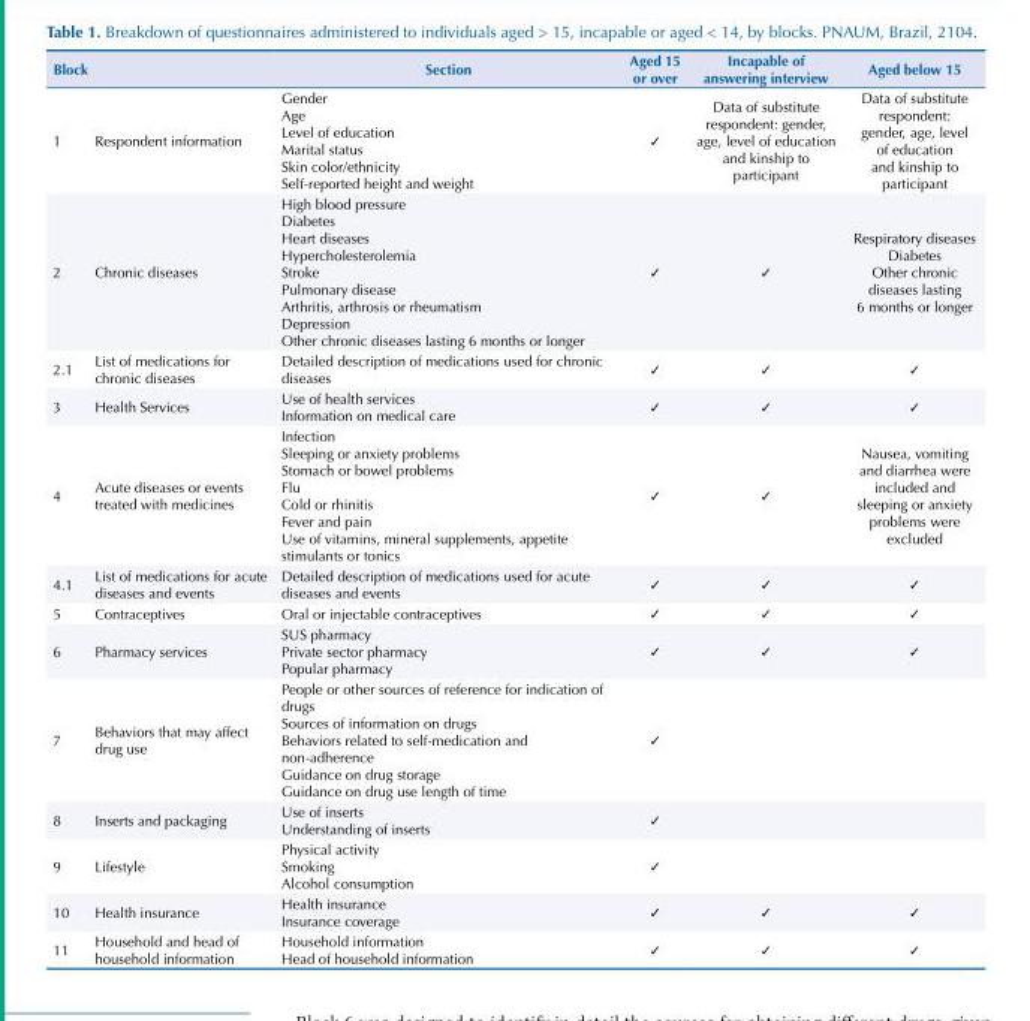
<table><thead><tr><td colspan="2">Block</td><td rowspan="2">Section Gender Age Level of education Marital status Skin color/ethnicity Self-reported height and weight</td><td rowspan="2">Aged 15 or over ✓</td><td rowspan="2">Incapable of answering interview Data of substitute respondent: gender, age, level of education and kinship to participant</td><td rowspan="2">Aged below 15 Data of substitute respondent: gender, age, level of education and kinship to participant</td></tr><tr><td>1</td><td>Respondent information</td></tr></thead><tbody><tr><td>2</td><td>Chronic diseases</td><td>High blood pressure Diabetes Heart diseases Hypercholesterolemia Stroke Pulmonary disease Arthritis, arthrosis or rheumatism Depression Other chronic diseases lasting 6 months or longer</td><td>✓</td><td>✓</td><td>Respiratory diseases Diabetes Other chronic diseases lasting 6 months or longer</td></tr><tr><td>2.1</td><td>List of medications for chronic diseases</td><td>Detailed description of medications used for chronic diseases</td><td>✓</td><td>✓</td><td>✓</td></tr><tr><td>3</td><td>Health Services</td><td>Use of health services Information on medical care</td><td>✓</td><td>✓</td><td>✓</td></tr><tr><td>4</td><td>Acute diseases or events treated with medicines</td><td>Infection Sleeping or anxiety problems Stomach or bowel problems Flu Cold or rhinitis Fever and pain Use of vitamins, mineral supplements, appetite stimulants or tonics</td><td>✓</td><td>✓</td><td>Nausea, vomiting and diarrhea were included and sleeping or anxiety problems were excluded</td></tr><tr><td>4.1</td><td>List of medications for acute diseases and events</td><td>Detailed description of medications used for acute diseases and events</td><td>✓</td><td>✓</td><td>✓</td></tr><tr><td>5</td><td>Contraceptives</td><td>Oral or injectable contraceptives</td><td>✓</td><td>✓</td><td>✓</td></tr><tr><td>6</td><td>Pharmacy services</td><td>SUS pharmacy Private sector pharmacy Popular pharmacy</td><td>✓</td><td>✓</td><td>✓</td></tr><tr><td>7</td><td>Behaviors that may affect drug use</td><td>People or other sources of reference for indication of drugs Sources of information on drugs Behaviors related to self-medication and non-adherence Guidance on drug storage Guidance on drug use length of time</td><td>✓</td><td></td><td></td></tr><tr><td>8</td><td>Inserts and packaging</td><td>Use of inserts Understanding of inserts</td><td>✓</td><td></td><td></td></tr><tr><td>9</td><td>Lifestyle</td><td>Physical activity Smoking Alcohol consumption</td><td>✓</td><td></td><td></td></tr><tr><td>10</td><td>Health insurance</td><td>Health insurance Insurance coverage</td><td>✓</td><td>✓</td><td>✓</td></tr><tr><td>11</td><td>Household and head of household information</td><td>Household information Head of household information</td><td>✓</td><td>✓</td><td>✓</td></tr></tbody></table>